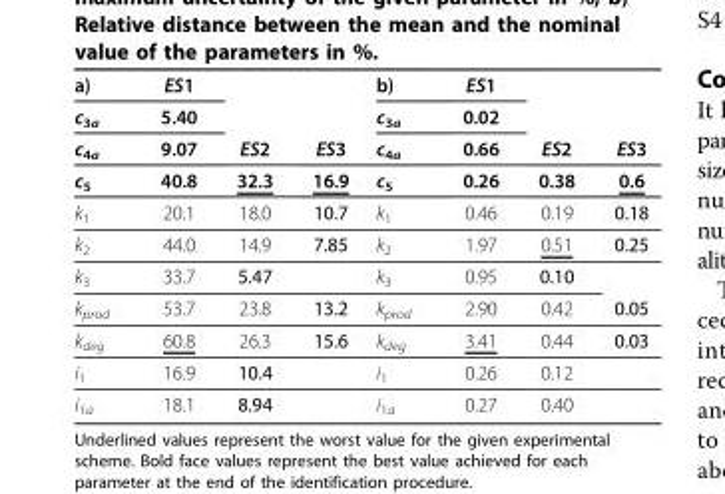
<table><tbody><tr><td>a)</td><td>ES1</td><td></td><td></td><td>b)</td><td>ES1</td><td></td><td></td></tr><tr><td>c<sub>3a</sub></td><td>5.40</td><td></td><td></td><td>c<sub>3a</sub></td><td>0.02</td><td></td><td></td></tr><tr><td>c<sub>4a</sub></td><td>9.07</td><td>ES2</td><td>ES3</td><td>c<sub>4a</sub></td><td>0.66</td><td>ES2</td><td>ES3</td></tr><tr><td>c<sub>5</sub></td><td>40.8</td><td>32.3</td><td>16.9</td><td>c<sub>5</sub></td><td>0.26</td><td>0.38</td><td>0.6</td></tr><tr><td>k<sub>1</sub></td><td>20.1</td><td>18.0</td><td>10.7</td><td>k<sub>1</sub></td><td>0.46</td><td>0.19</td><td>0.18</td></tr><tr><td>k<sub>2</sub></td><td>44.0</td><td>14.9</td><td>7.85</td><td>k<sub>2</sub></td><td>1.97</td><td>0.51</td><td>0.25</td></tr><tr><td>k<sub>3</sub></td><td>33.7</td><td>5.47</td><td></td><td>k<sub>3</sub></td><td>0.95</td><td>0.10</td><td></td></tr><tr><td>k<sub>prod</sub></td><td>53.7</td><td>23.8</td><td>13.2</td><td>k<sub>prod</sub></td><td>2.90</td><td>0.42</td><td>0.05</td></tr><tr><td>k<sub>deg</sub></td><td>60.8</td><td>26.3</td><td>15.6</td><td>k<sub>deg</sub></td><td>3.41</td><td>0.44</td><td>0.03</td></tr><tr><td>i<sub>1</sub></td><td>16.9</td><td>10.4</td><td></td><td>i<sub>1</sub></td><td>0.26</td><td>0.12</td><td></td></tr><tr><td>i<sub>1a</sub></td><td>18.1</td><td>8.94</td><td></td><td>i<sub>1a</sub></td><td>0.27</td><td>0.40</td><td></td></tr></tbody></table>